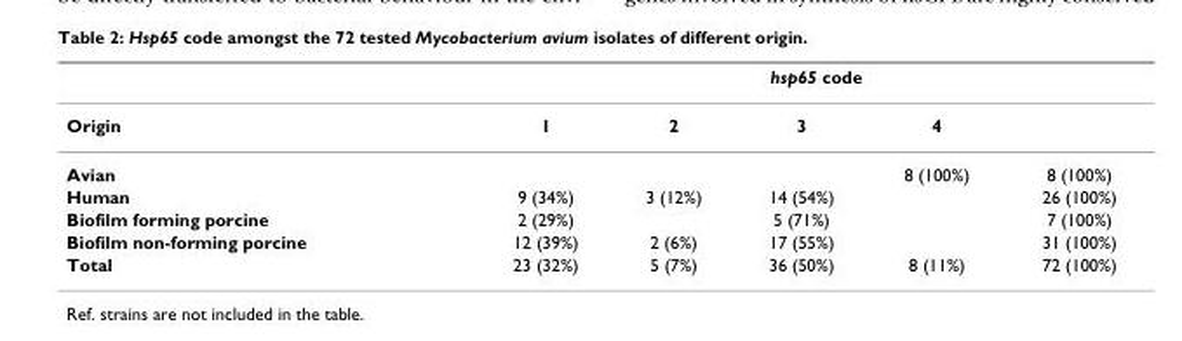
<table><thead><tr><td rowspan="2">Origin</td><td colspan="5">hsp65 code</td></tr><tr><td>1</td><td>2</td><td>3</td><td>4</td><td></td></tr></thead><tbody><tr><td>Avian</td><td></td><td></td><td></td><td>8 (100%)</td><td>8 (100%)</td></tr><tr><td>Human</td><td>9 (34%)</td><td>3 (12%)</td><td>14 (54%)</td><td></td><td>26 (100%)</td></tr><tr><td>Biofilm forming porcine</td><td>2 (29%)</td><td></td><td>5 (71%)</td><td></td><td>7 (100%)</td></tr><tr><td>Biofilm non-forming porcine</td><td>12 (39%)</td><td>2 (6%)</td><td>17 (55%)</td><td></td><td>31 (100%)</td></tr><tr><td>Total</td><td>23 (32%)</td><td>5 (7%)</td><td>36 (50%)</td><td>8 (11%)</td><td>72 (100%)</td></tr></tbody></table>